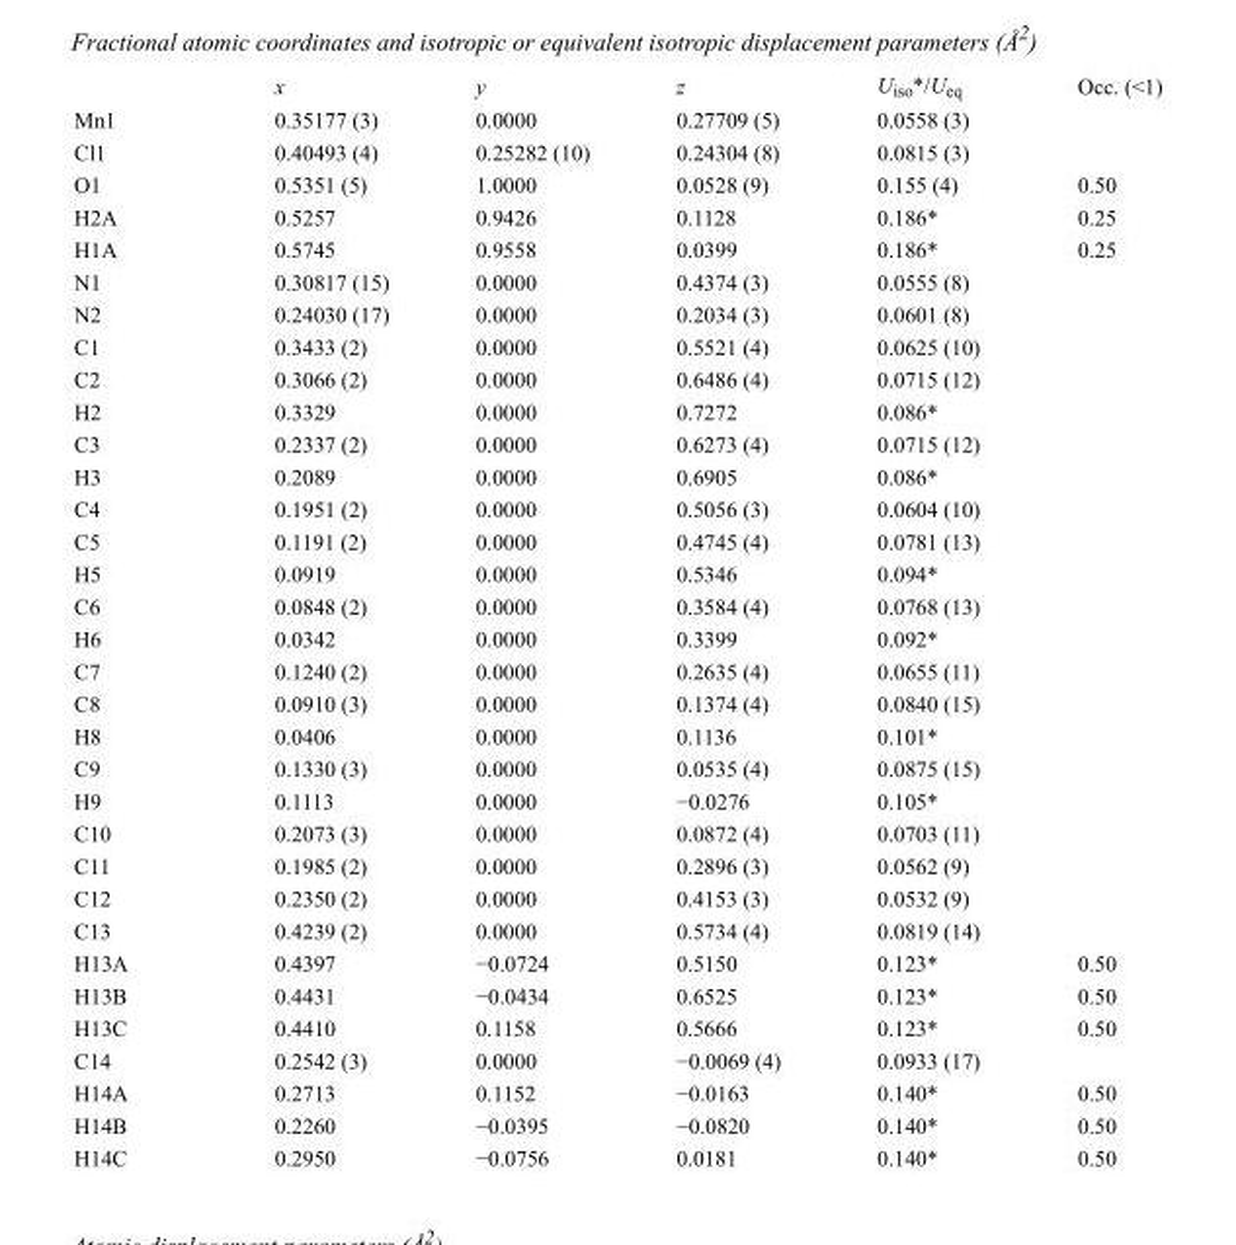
<table><thead><tr><td></td><td>x</td><td>y</td><td>z</td><td>U<sub>iso</sub>*/U<sub>eq</sub></td><td>Occ. (&lt;1)</td></tr></thead><tbody><tr><td>Mn1</td><td>0.35177 (3)</td><td>0.0000</td><td>0.27709 (5)</td><td>0.0558 (3)</td><td></td></tr><tr><td>Cl1</td><td>0.40493 (4)</td><td>0.25282 (10)</td><td>0.24304 (8)</td><td>0.0815 (3)</td><td></td></tr><tr><td>O1</td><td>0.5351 (5)</td><td>1.0000</td><td>0.0528 (9)</td><td>0.155 (4)</td><td>0.50</td></tr><tr><td>H2A</td><td>0.5257</td><td>0.9426</td><td>0.1128</td><td>0.186*</td><td>0.25</td></tr><tr><td>H1A</td><td>0.5745</td><td>0.9558</td><td>0.0399</td><td>0.186*</td><td>0.25</td></tr><tr><td>N1</td><td>0.30817 (15)</td><td>0.0000</td><td>0.4374 (3)</td><td>0.0555 (8)</td><td></td></tr><tr><td>N2</td><td>0.24030 (17)</td><td>0.0000</td><td>0.2034 (3)</td><td>0.0601 (8)</td><td></td></tr><tr><td>C1</td><td>0.3433 (2)</td><td>0.0000</td><td>0.5521 (4)</td><td>0.0625 (10)</td><td></td></tr><tr><td>C2</td><td>0.3066 (2)</td><td>0.0000</td><td>0.6486 (4)</td><td>0.0715 (12)</td><td></td></tr><tr><td>H2</td><td>0.3329</td><td>0.0000</td><td>0.7272</td><td>0.086*</td><td></td></tr><tr><td>C3</td><td>0.2337 (2)</td><td>0.0000</td><td>0.6273 (4)</td><td>0.0715 (12)</td><td></td></tr><tr><td>H3</td><td>0.2089</td><td>0.0000</td><td>0.6905</td><td>0.086*</td><td></td></tr><tr><td>C4</td><td>0.1951 (2)</td><td>0.0000</td><td>0.5056 (3)</td><td>0.0604 (10)</td><td></td></tr><tr><td>C5</td><td>0.1191 (2)</td><td>0.0000</td><td>0.4745 (4)</td><td>0.0781 (13)</td><td></td></tr><tr><td>H5</td><td>0.0919</td><td>0.0000</td><td>0.5346</td><td>0.094*</td><td></td></tr><tr><td>C6</td><td>0.0848 (2)</td><td>0.0000</td><td>0.3584 (4)</td><td>0.0768 (13)</td><td></td></tr><tr><td>H6</td><td>0.0342</td><td>0.0000</td><td>0.3399</td><td>0.092*</td><td></td></tr><tr><td>C7</td><td>0.1240 (2)</td><td>0.0000</td><td>0.2635 (4)</td><td>0.0655 (11)</td><td></td></tr><tr><td>C8</td><td>0.0910 (3)</td><td>0.0000</td><td>0.1374 (4)</td><td>0.0840 (15)</td><td></td></tr><tr><td>H8</td><td>0.0406</td><td>0.0000</td><td>0.1136</td><td>0.101*</td><td></td></tr><tr><td>C9</td><td>0.1330 (3)</td><td>0.0000</td><td>0.0535 (4)</td><td>0.0875 (15)</td><td></td></tr><tr><td>H9</td><td>0.1113</td><td>0.0000</td><td>−0.0276</td><td>0.105*</td><td></td></tr><tr><td>C10</td><td>0.2073 (3)</td><td>0.0000</td><td>0.0872 (4)</td><td>0.0703 (11)</td><td></td></tr><tr><td>C11</td><td>0.1985 (2)</td><td>0.0000</td><td>0.2896 (3)</td><td>0.0562 (9)</td><td></td></tr><tr><td>C12</td><td>0.2350 (2)</td><td>0.0000</td><td>0.4153 (3)</td><td>0.0532 (9)</td><td></td></tr><tr><td>C13</td><td>0.4239 (2)</td><td>0.0000</td><td>0.5734 (4)</td><td>0.0819 (14)</td><td></td></tr><tr><td>H13A</td><td>0.4397</td><td>−0.0724</td><td>0.5150</td><td>0.123*</td><td>0.50</td></tr><tr><td>H13B</td><td>0.4431</td><td>−0.0434</td><td>0.6525</td><td>0.123*</td><td>0.50</td></tr><tr><td>H13C</td><td>0.4410</td><td>0.1158</td><td>0.5666</td><td>0.123*</td><td>0.50</td></tr><tr><td>C14</td><td>0.2542 (3)</td><td>0.0000</td><td>−0.0069 (4)</td><td>0.0933 (17)</td><td></td></tr><tr><td>H14A</td><td>0.2713</td><td>0.1152</td><td>−0.0163</td><td>0.140*</td><td>0.50</td></tr><tr><td>H14B</td><td>0.2260</td><td>−0.0395</td><td>−0.0820</td><td>0.140*</td><td>0.50</td></tr><tr><td>H14C</td><td>0.2950</td><td>−0.0756</td><td>0.0181</td><td>0.140*</td><td>0.50</td></tr></tbody></table>